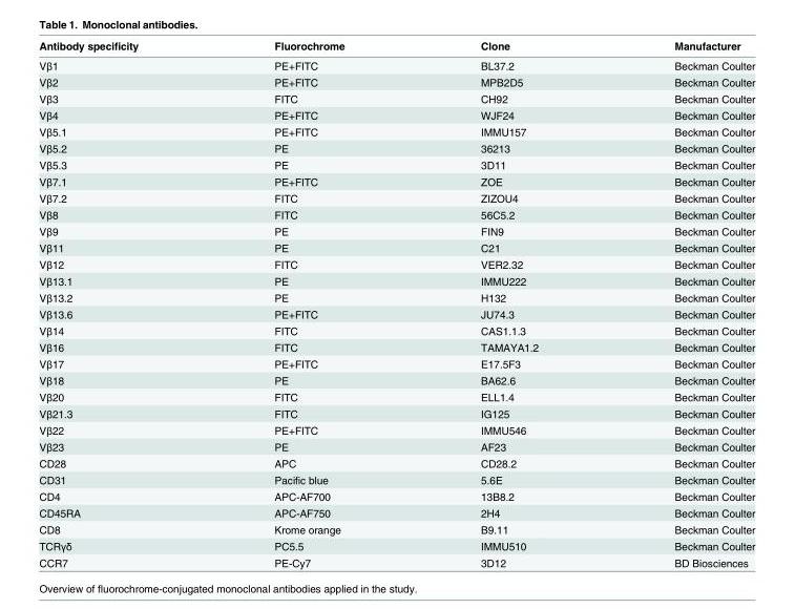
<table><thead><tr><td>Antibody specificity</td><td>Fluorochrome</td><td>Clone</td><td>Manufacturer</td></tr></thead><tbody><tr><td>Vβ1</td><td>PE+FITC</td><td>BL37.2</td><td>Beckman Coulter</td></tr><tr><td>Vβ2</td><td>PE+FITC</td><td>MPB2D5</td><td>Beckman Coulter</td></tr><tr><td>Vβ3</td><td>FITC</td><td>CH92</td><td>Beckman Coulter</td></tr><tr><td>Vβ4</td><td>PE+FITC</td><td>WJF24</td><td>Beckman Coulter</td></tr><tr><td>Vβ5.1</td><td>PE+FITC</td><td>IMMU157</td><td>Beckman Coulter</td></tr><tr><td>Vβ5.2</td><td>PE</td><td>36213</td><td>Beckman Coulter</td></tr><tr><td>Vβ5.3</td><td>PE</td><td>3D11</td><td>Beckman Coulter</td></tr><tr><td>Vβ7.1</td><td>PE+FITC</td><td>ZOE</td><td>Beckman Coulter</td></tr><tr><td>Vβ7.2</td><td>FITC</td><td>ZIZOU4</td><td>Beckman Coulter</td></tr><tr><td>Vβ8</td><td>FITC</td><td>56C5.2</td><td>Beckman Coulter</td></tr><tr><td>Vβ9</td><td>PE</td><td>FIN9</td><td>Beckman Coulter</td></tr><tr><td>Vβ11</td><td>PE</td><td>C21</td><td>Beckman Coulter</td></tr><tr><td>Vβ12</td><td>FITC</td><td>VER2.32</td><td>Beckman Coulter</td></tr><tr><td>Vβ13.1</td><td>PE</td><td>IMMU222</td><td>Beckman Coulter</td></tr><tr><td>Vβ13.2</td><td>PE</td><td>H132</td><td>Beckman Coulter</td></tr><tr><td>Vβ13.6</td><td>PE+FITC</td><td>JU74.3</td><td>Beckman Coulter</td></tr><tr><td>Vβ14</td><td>FITC</td><td>CAS1.1.3</td><td>Beckman Coulter</td></tr><tr><td>Vβ16</td><td>FITC</td><td>TAMAYA1.2</td><td>Beckman Coulter</td></tr><tr><td>Vβ17</td><td>PE+FITC</td><td>E17.5F3</td><td>Beckman Coulter</td></tr><tr><td>Vβ18</td><td>PE</td><td>BA62.6</td><td>Beckman Coulter</td></tr><tr><td>Vβ20</td><td>FITC</td><td>ELL1.4</td><td>Beckman Coulter</td></tr><tr><td>Vβ21.3</td><td>FITC</td><td>IG125</td><td>Beckman Coulter</td></tr><tr><td>Vβ22</td><td>PE+FITC</td><td>IMMU546</td><td>Beckman Coulter</td></tr><tr><td>Vβ23</td><td>PE</td><td>AF23</td><td>Beckman Coulter</td></tr><tr><td>CD28</td><td>APC</td><td>CD28.2</td><td>Beckman Coulter</td></tr><tr><td>CD31</td><td>Pacific blue</td><td>5.6E</td><td>Beckman Coulter</td></tr><tr><td>CD4</td><td>APC-AF700</td><td>13B8.2</td><td>Beckman Coulter</td></tr><tr><td>CD45RA</td><td>APC-AF750</td><td>2H4</td><td>Beckman Coulter</td></tr><tr><td>CD8</td><td>Krome orange</td><td>B9.11</td><td>Beckman Coulter</td></tr><tr><td>TCRγδ</td><td>PC5.5</td><td>IMMU510</td><td>Beckman Coulter</td></tr><tr><td>CCR7</td><td>PE-Cy7</td><td>3D12</td><td>BD Biosciences</td></tr></tbody></table>